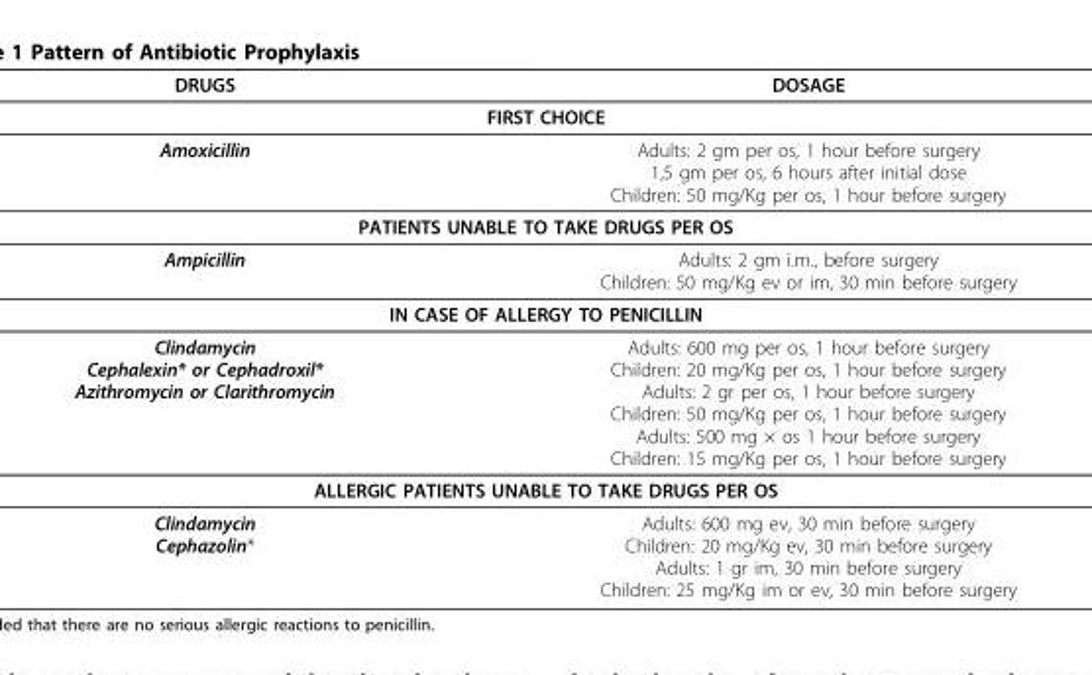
<table><thead><tr><td>DRUGS</td><td>DOSAGE</td></tr></thead><tbody><tr><td colspan="2">FIRST CHOICE</td></tr><tr><td>Amoxicillin</td><td>Adults: 2 gm per os, 1 hour before surgery 1,5 gm per os, 6 hours after initial dose Children: 50 mg/Kg per os, 1 hour before surgery</td></tr><tr><td colspan="2">PATIENTS UNABLE TO TAKE DRUGS PER OS</td></tr><tr><td>Ampicillin</td><td>Adults: 2 gm i.m., before surgery Children: 50 mg/Kg ev or im, 30 min before surgery</td></tr><tr><td colspan="2">IN CASE OF ALLERGY TO PENICILLIN</td></tr><tr><td>Clindamycin Cephalexin* or Cephadroxil* Azithromycin or Clarithromycin</td><td>Adults: 600 mg per os, 1 hour before surgery Children: 20 mg/Kg per os, 1 hour before surgery Adults: 2 gr per os, 1 hour before surgery Children: 50 mg/Kg per os, 1 hour before surgery Adults: 500 mg × os 1 hour before surgery Children: 15 mg/Kg per os, 1 hour before surgery</td></tr><tr><td colspan="2">ALLERGIC PATIENTS UNABLE TO TAKE DRUGS PER OS</td></tr><tr><td>Clindamycin Cephazolin*</td><td>Adults: 600 mg ev, 30 min before surgery Children: 20 mg/Kg ev, 30 min before surgery Adults: 1 gr im, 30 min before surgery Children: 25 mg/Kg im or ev, 30 min before surgery</td></tr></tbody></table>